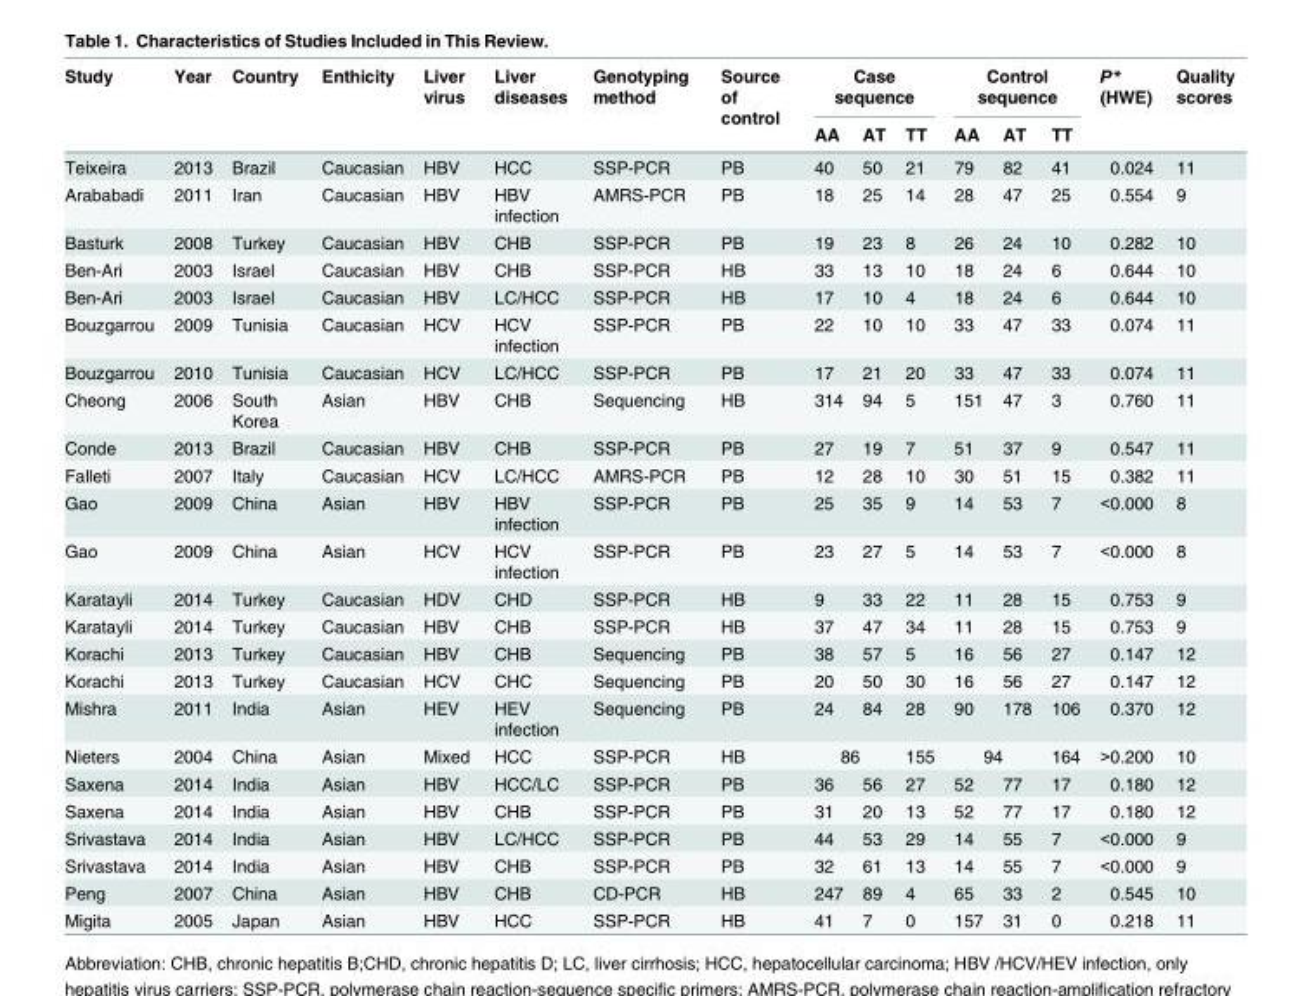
<table><thead><tr><td rowspan="2">Study</td><td rowspan="2">Year</td><td rowspan="2">Country</td><td rowspan="2">Enthicity</td><td rowspan="2">Liver virus</td><td rowspan="2">Liver diseases</td><td rowspan="2">Genotyping method</td><td rowspan="2">Source of control</td><td colspan="3">Case sequence</td><td colspan="3">Control sequence</td><td rowspan="2">P* (HWE)</td><td rowspan="2">Quality scores</td></tr><tr><td>AA</td><td>AT</td><td>TT</td><td>AA</td><td>AT</td><td>TT</td></tr></thead><tbody><tr><td>Teixeira</td><td>2013</td><td>Brazil</td><td>Caucasian</td><td>HBV</td><td>HCC</td><td>SSP-PCR</td><td>PB</td><td>40</td><td>50</td><td>21</td><td>79</td><td>82</td><td>41</td><td>0.024</td><td>11</td></tr><tr><td>Arababadi</td><td>2011</td><td>Iran</td><td>Caucasian</td><td>HBV</td><td>HBV infection</td><td>AMRS-PCR</td><td>PB</td><td>18</td><td>25</td><td>14</td><td>28</td><td>47</td><td>25</td><td>0.554</td><td>9</td></tr><tr><td>Basturk</td><td>2008</td><td>Turkey</td><td>Caucasian</td><td>HBV</td><td>CHB</td><td>SSP-PCR</td><td>PB</td><td>19</td><td>23</td><td>8</td><td>26</td><td>24</td><td>10</td><td>0.282</td><td>10</td></tr><tr><td>Ben-Ari</td><td>2003</td><td>Israel</td><td>Caucasian</td><td>HBV</td><td>CHB</td><td>SSP-PCR</td><td>HB</td><td>33</td><td>13</td><td>10</td><td>18</td><td>24</td><td>6</td><td>0.644</td><td>10</td></tr><tr><td>Ben-Ari</td><td>2003</td><td>Israel</td><td>Caucasian</td><td>HBV</td><td>LC/HCC</td><td>SSP-PCR</td><td>HB</td><td>17</td><td>10</td><td>4</td><td>18</td><td>24</td><td>6</td><td>0.644</td><td>10</td></tr><tr><td>Bouzgarrou</td><td>2009</td><td>Tunisia</td><td>Caucasian</td><td>HCV</td><td>HCV infection</td><td>SSP-PCR</td><td>PB</td><td>22</td><td>10</td><td>10</td><td>33</td><td>47</td><td>33</td><td>0.074</td><td>11</td></tr><tr><td>Bouzgarrou</td><td>2010</td><td>Tunisia</td><td>Caucasian</td><td>HCV</td><td>LC/HCC</td><td>SSP-PCR</td><td>PB</td><td>17</td><td>21</td><td>20</td><td>33</td><td>47</td><td>33</td><td>0.074</td><td>11</td></tr><tr><td>Cheong</td><td>2006</td><td>South Korea</td><td>Asian</td><td>HBV</td><td>CHB</td><td>Sequencing</td><td>HB</td><td>314</td><td>94</td><td>5</td><td>151</td><td>47</td><td>3</td><td>0.760</td><td>11</td></tr><tr><td>Conde</td><td>2013</td><td>Brazil</td><td>Caucasian</td><td>HBV</td><td>CHB</td><td>SSP-PCR</td><td>PB</td><td>27</td><td>19</td><td>7</td><td>51</td><td>37</td><td>9</td><td>0.547</td><td>11</td></tr><tr><td>Falleti</td><td>2007</td><td>Italy</td><td>Caucasian</td><td>HCV</td><td>LC/HCC</td><td>AMRS-PCR</td><td>PB</td><td>12</td><td>28</td><td>10</td><td>30</td><td>51</td><td>15</td><td>0.382</td><td>11</td></tr><tr><td>Gao</td><td>2009</td><td>China</td><td>Asian</td><td>HBV</td><td>HBV infection</td><td>SSP-PCR</td><td>PB</td><td>25</td><td>35</td><td>9</td><td>14</td><td>53</td><td>7</td><td>&lt;0.000</td><td>8</td></tr><tr><td>Gao</td><td>2009</td><td>China</td><td>Asian</td><td>HCV</td><td>HCV infection</td><td>SSP-PCR</td><td>PB</td><td>23</td><td>27</td><td>5</td><td>14</td><td>53</td><td>7</td><td>&lt;0.000</td><td>8</td></tr><tr><td>Karatayli</td><td>2014</td><td>Turkey</td><td>Caucasian</td><td>HDV</td><td>CHD</td><td>SSP-PCR</td><td>HB</td><td>9</td><td>33</td><td>22</td><td>11</td><td>28</td><td>15</td><td>0.753</td><td>9</td></tr><tr><td>Karatayli</td><td>2014</td><td>Turkey</td><td>Caucasian</td><td>HBV</td><td>CHB</td><td>SSP-PCR</td><td>HB</td><td>37</td><td>47</td><td>34</td><td>11</td><td>28</td><td>15</td><td>0.753</td><td>9</td></tr><tr><td>Korachi</td><td>2013</td><td>Turkey</td><td>Caucasian</td><td>HBV</td><td>CHB</td><td>Sequencing</td><td>PB</td><td>38</td><td>57</td><td>5</td><td>16</td><td>56</td><td>27</td><td>0.147</td><td>12</td></tr><tr><td>Korachi</td><td>2013</td><td>Turkey</td><td>Caucasian</td><td>HCV</td><td>CHC</td><td>Sequencing</td><td>PB</td><td>20</td><td>50</td><td>30</td><td>16</td><td>56</td><td>27</td><td>0.147</td><td>12</td></tr><tr><td>Mishra</td><td>2011</td><td>India</td><td>Asian</td><td>HEV</td><td>HEV infection</td><td>Sequencing</td><td>PB</td><td>24</td><td>84</td><td>28</td><td>90</td><td>178</td><td>106</td><td>0.370</td><td>12</td></tr><tr><td>Nieters</td><td>2004</td><td>China</td><td>Asian</td><td>Mixed</td><td>HCC</td><td>SSP-PCR</td><td>HB</td><td colspan="2">86</td><td>155</td><td colspan="2">94</td><td>164</td><td>&gt;0.200</td><td>10</td></tr><tr><td>Saxena</td><td>2014</td><td>India</td><td>Asian</td><td>HBV</td><td>HCC/LC</td><td>SSP-PCR</td><td>PB</td><td>36</td><td>56</td><td>27</td><td>52</td><td>77</td><td>17</td><td>0.180</td><td>12</td></tr><tr><td>Saxena</td><td>2014</td><td>India</td><td>Asian</td><td>HBV</td><td>CHB</td><td>SSP-PCR</td><td>PB</td><td>31</td><td>20</td><td>13</td><td>52</td><td>77</td><td>17</td><td>0.180</td><td>12</td></tr><tr><td>Srivastava</td><td>2014</td><td>India</td><td>Asian</td><td>HBV</td><td>LC/HCC</td><td>SSP-PCR</td><td>PB</td><td>44</td><td>53</td><td>29</td><td>14</td><td>55</td><td>7</td><td>&lt;0.000</td><td>9</td></tr><tr><td>Srivastava</td><td>2014</td><td>India</td><td>Asian</td><td>HBV</td><td>CHB</td><td>SSP-PCR</td><td>PB</td><td>32</td><td>61</td><td>13</td><td>14</td><td>55</td><td>7</td><td>&lt;0.000</td><td>9</td></tr><tr><td>Peng</td><td>2007</td><td>China</td><td>Asian</td><td>HBV</td><td>CHB</td><td>CD-PCR</td><td>HB</td><td>247</td><td>89</td><td>4</td><td>65</td><td>33</td><td>2</td><td>0.545</td><td>10</td></tr><tr><td>Migita</td><td>2005</td><td>Japan</td><td>Asian</td><td>HBV</td><td>HCC</td><td>SSP-PCR</td><td>HB</td><td>41</td><td>7</td><td>0</td><td>157</td><td>31</td><td>0</td><td>0.218</td><td>11</td></tr></tbody></table>